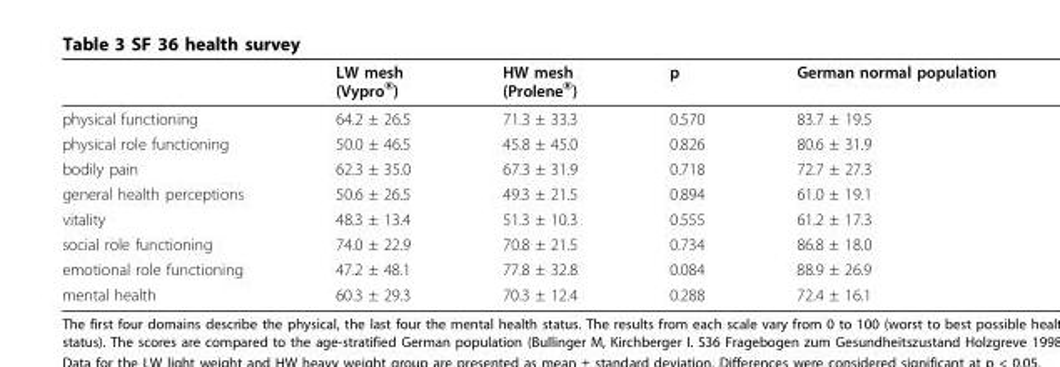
<table><thead><tr><td></td><td>LW mesh (Vypro<sup>®</sup>)</td><td>HW mesh (Prolene<sup>®</sup>)</td><td>p</td><td>German normal population</td></tr></thead><tbody><tr><td>physical functioning</td><td>64.2 ± 26.5</td><td>71.3 ± 33.3</td><td>0.570</td><td>83.7 ± 19.5</td></tr><tr><td>physical role functioning</td><td>50.0 ± 46.5</td><td>45.8 ± 45.0</td><td>0.826</td><td>80.6 ± 31.9</td></tr><tr><td>bodily pain</td><td>62.3 ± 35.0</td><td>67.3 ± 31.9</td><td>0.718</td><td>72.7 ± 27.3</td></tr><tr><td>general health perceptions</td><td>50.6 ± 26.5</td><td>49.3 ± 21.5</td><td>0.894</td><td>61.0 ± 19.1</td></tr><tr><td>vitality</td><td>48.3 ± 13.4</td><td>51.3 ± 10.3</td><td>0.555</td><td>61.2 ± 17.3</td></tr><tr><td>social role functioning</td><td>74.0 ± 22.9</td><td>70.8 ± 21.5</td><td>0.734</td><td>86.8 ± 18.0</td></tr><tr><td>emotional role functioning</td><td>47.2 ± 48.1</td><td>77.8 ± 32.8</td><td>0.084</td><td>88.9 ± 26.9</td></tr><tr><td>mental health</td><td>60.3 ± 29.3</td><td>70.3 ± 12.4</td><td>0.288</td><td>72.4 ± 16.1</td></tr></tbody></table>